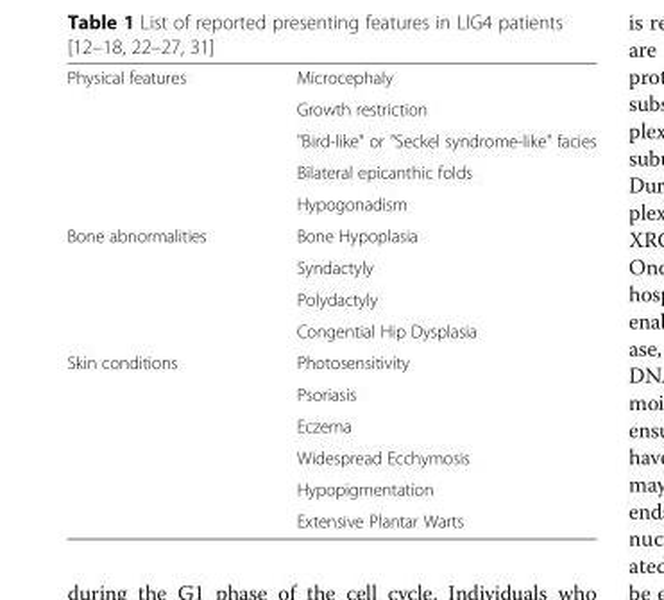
<table><tbody><tr><td rowspan="5">Physical features</td><td>Microcephaly</td></tr><tr><td>Growth restriction</td></tr><tr><td>&quot;Bird-like&quot; or &quot;Seckel syndrome-like&quot; facies</td></tr><tr><td>Bilateral epicanthic folds</td></tr><tr><td>Hypogonadism</td></tr><tr><td rowspan="4">Bone abnormalities</td><td>Bone Hypoplasia</td></tr><tr><td>Syndactyly</td></tr><tr><td>Polydactyly</td></tr><tr><td>Congential Hip Dysplasia</td></tr><tr><td rowspan="6">Skin conditions</td><td>Photosensitivity</td></tr><tr><td>Psoriasis</td></tr><tr><td>Eczema</td></tr><tr><td>Widespread Ecchymosis</td></tr><tr><td>Hypopigmentation</td></tr><tr><td>Extensive Plantar Warts</td></tr></tbody></table>